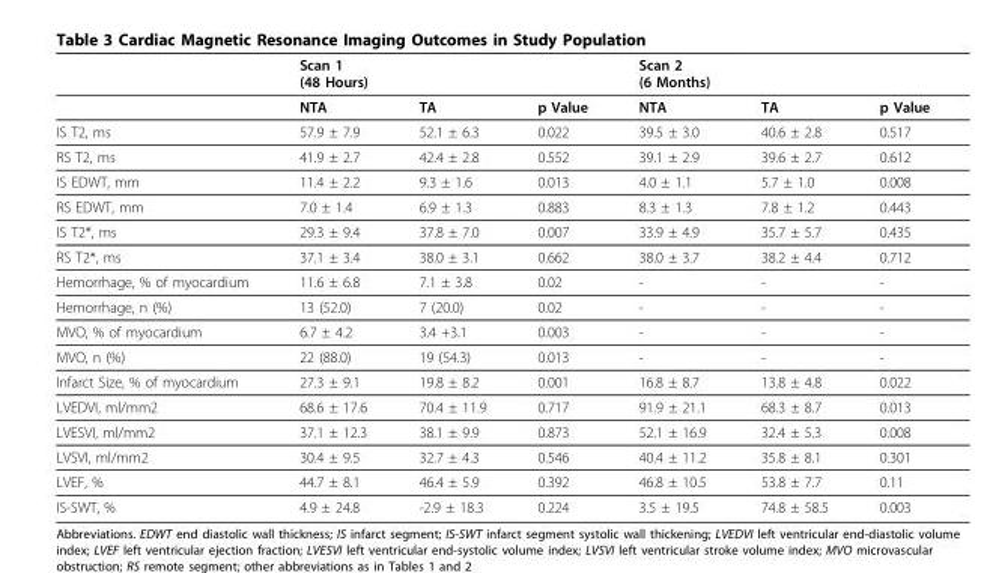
<table><thead><tr><td></td><td>Scan 1 (48 Hours)</td><td></td><td></td><td>Scan 2 (6 Months)</td><td></td><td></td></tr></thead><tbody><tr><td></td><td>NTA</td><td>TA</td><td>p Value</td><td>NTA</td><td>TA</td><td>p Value</td></tr><tr><td>IS T2, ms</td><td>57.9 ± 7.9</td><td>52.1 ± 6.3</td><td>0.022</td><td>39.5 ± 3.0</td><td>40.6 ± 2.8</td><td>0.517</td></tr><tr><td>RS T2, ms</td><td>41.9 ± 2.7</td><td>42.4 ± 2.8</td><td>0.552</td><td>39.1 ± 2.9</td><td>39.6 ± 2.7</td><td>0.612</td></tr><tr><td>IS EDWT, mm</td><td>11.4 ± 2.2</td><td>9.3 ± 1.6</td><td>0.013</td><td>4.0 ± 1.1</td><td>5.7 ± 1.0</td><td>0.008</td></tr><tr><td>RS EDWT, mm</td><td>7.0 ± 1.4</td><td>6.9 ± 1.3</td><td>0.883</td><td>8.3 ± 1.3</td><td>7.8 ± 1.2</td><td>0.443</td></tr><tr><td>IS T2*, ms</td><td>29.3 ± 9.4</td><td>37.8 ± 7.0</td><td>0.007</td><td>33.9 ± 4.9</td><td>35.7 ± 5.7</td><td>0.435</td></tr><tr><td>RS T2*, ms</td><td>37.1 ± 3.4</td><td>38.0 ± 3.1</td><td>0.662</td><td>38.0 ± 3.7</td><td>38.2 ± 4.4</td><td>0.712</td></tr><tr><td>Hemorrhage, % of myocardium</td><td>11.6 ± 6.8</td><td>7.1 ± 3.8</td><td>0.02</td><td>-</td><td>-</td><td>-</td></tr><tr><td>Hemorrhage, n (%)</td><td>13 (52.0)</td><td>7 (20.0)</td><td>0.02</td><td>-</td><td>-</td><td>-</td></tr><tr><td>MVO, % of myocardium</td><td>6.7 ± 4.2</td><td>3.4 +3.1</td><td>0.003</td><td>-</td><td>-</td><td>-</td></tr><tr><td>MVO, n (%)</td><td>22 (88.0)</td><td>19 (54.3)</td><td>0.013</td><td>-</td><td>-</td><td>-</td></tr><tr><td>Infarct Size, % of myocardium</td><td>27.3 ± 9.1</td><td>19.8 ± 8.2</td><td>0.001</td><td>16.8 ± 8.7</td><td>13.8 ± 4.8</td><td>0.022</td></tr><tr><td>LVEDVI, ml/mm2</td><td>68.6 ± 17.6</td><td>70.4 ± 11.9</td><td>0.717</td><td>91.9 ± 21.1</td><td>68.3 ± 8.7</td><td>0.013</td></tr><tr><td>LVESVI, ml/mm2</td><td>37.1 ± 12.3</td><td>38.1 ± 9.9</td><td>0.873</td><td>52.1 ± 16.9</td><td>32.4 ± 5.3</td><td>0.008</td></tr><tr><td>LVSVI, ml/mm2</td><td>30.4 ± 9.5</td><td>32.7 ± 4.3</td><td>0.546</td><td>40.4 ± 11.2</td><td>35.8 ± 8.1</td><td>0.301</td></tr><tr><td>LVEF, %</td><td>44.7 ± 8.1</td><td>46.4 ± 5.9</td><td>0.392</td><td>46.8 ± 10.5</td><td>53.8 ± 7.7</td><td>0.11</td></tr><tr><td>IS-SWT, %</td><td>4.9 ± 24.8</td><td>-2.9 ± 18.3</td><td>0.224</td><td>3.5 ± 19.5</td><td>74.8 ± 58.5</td><td>0.003</td></tr></tbody></table>